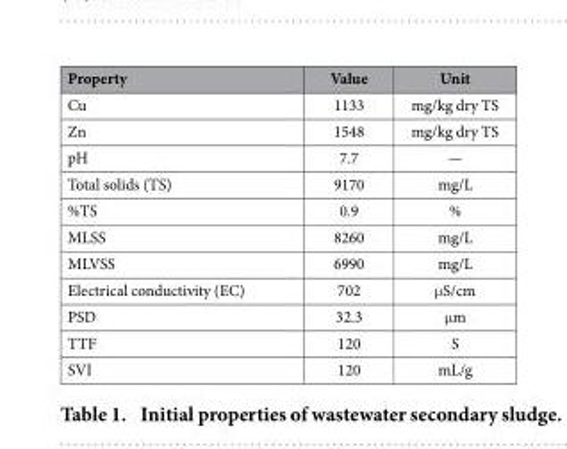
<table><thead><tr><td>Property</td><td>Value</td><td>Unit</td></tr></thead><tbody><tr><td>Cu</td><td>1133</td><td>mg/kg dry TS</td></tr><tr><td>Zn</td><td>1548</td><td>mg/kg dry TS</td></tr><tr><td>pH</td><td>7.7</td><td>—</td></tr><tr><td>Total solids (TS)</td><td>9170</td><td>mg/L</td></tr><tr><td>%TS</td><td>0.9</td><td>%</td></tr><tr><td>MLSS</td><td>8260</td><td>mg/L</td></tr><tr><td>MLVSS</td><td>6990</td><td>mg/L</td></tr><tr><td>Electrical conductivity (EC)</td><td>702</td><td>μ S/cm</td></tr><tr><td>PSD</td><td>32.3</td><td>μ m</td></tr><tr><td>TTF</td><td>120</td><td>S</td></tr><tr><td>SVI</td><td>120</td><td>mL/g</td></tr></tbody></table>